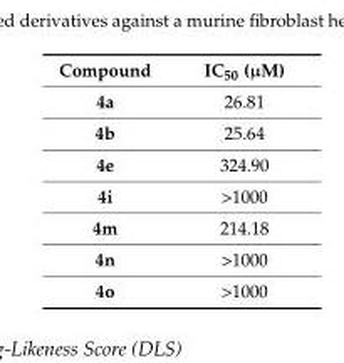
<table><thead><tr><td>Compound</td><td>IC50 (µM)</td></tr></thead><tbody><tr><td>4a</td><td>26.81</td></tr><tr><td>4b</td><td>25.64</td></tr><tr><td>4e</td><td>324.90</td></tr><tr><td>4i</td><td>&gt;1000</td></tr><tr><td>4m</td><td>214.18</td></tr><tr><td>4n</td><td>&gt;1000</td></tr><tr><td>4o</td><td>&gt;1000</td></tr></tbody></table>